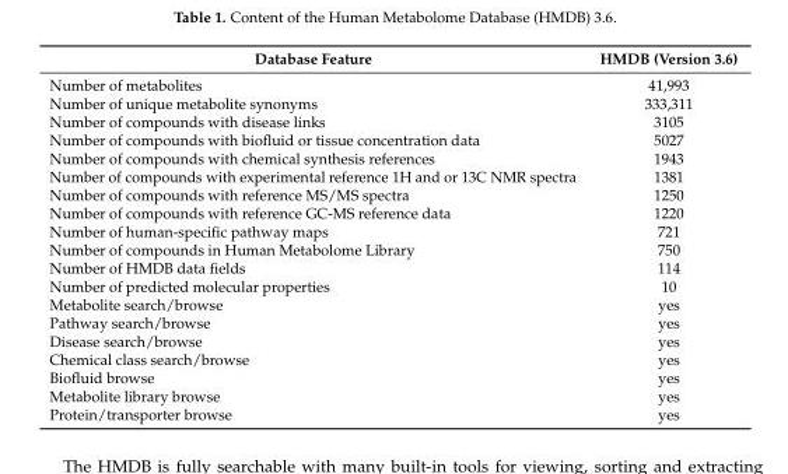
<table><thead><tr><td>Database Feature</td><td>HMDB (Version 3.6)</td></tr></thead><tbody><tr><td>Number of metabolites</td><td>41,993</td></tr><tr><td>Number of unique metabolite synonyms</td><td>333,311</td></tr><tr><td>Number of compounds with disease links</td><td>3105</td></tr><tr><td>Number of compounds with biofluid or tissue concentration data</td><td>5027</td></tr><tr><td>Number of compounds with chemical synthesis references</td><td>1943</td></tr><tr><td>Number of compounds with experimental reference 1H and or 13C NMR spectra</td><td>1381</td></tr><tr><td>Number of compounds with reference MS/MS spectra</td><td>1250</td></tr><tr><td>Number of compounds with reference GC-MS reference data</td><td>1220</td></tr><tr><td>Number of human-specific pathway maps</td><td>721</td></tr><tr><td>Number of compounds in Human Metabolome Library</td><td>750</td></tr><tr><td>Number of HMDB data fields</td><td>114</td></tr><tr><td>Number of predicted molecular properties</td><td>10</td></tr><tr><td>Metabolite search/browse</td><td>yes</td></tr><tr><td>Pathway search/browse</td><td>yes</td></tr><tr><td>Disease search/browse</td><td>yes</td></tr><tr><td>Chemical class search/browse</td><td>yes</td></tr><tr><td>Biofluid browse</td><td>yes</td></tr><tr><td>Metabolite library browse</td><td>yes</td></tr><tr><td>Protein/transporter browse</td><td>yes</td></tr></tbody></table>